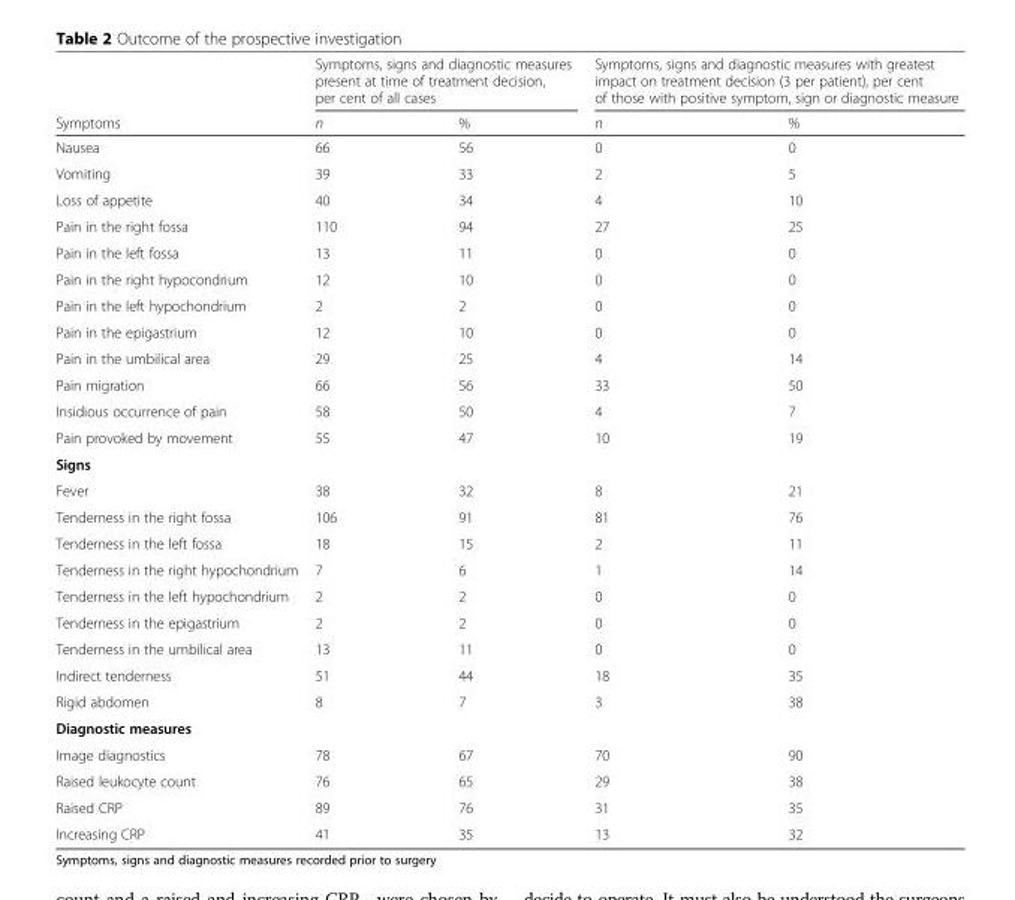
<table><thead><tr><td rowspan="2">Symptoms</td><td colspan="2">Symptoms, signs and diagnostic measures present at time of treatment decision, per cent of all cases</td><td colspan="2">Symptoms, signs and diagnostic measures with greatest impact on treatment decision (3 per patient), per cent of those with positive symptom, sign or diagnostic measure</td></tr><tr><td>n</td><td>%</td><td>n</td><td>%</td></tr></thead><tbody><tr><td>Nausea</td><td>66</td><td>56</td><td>0</td><td>0</td></tr><tr><td>Vomiting</td><td>39</td><td>33</td><td>2</td><td>5</td></tr><tr><td>Loss of appetite</td><td>40</td><td>34</td><td>4</td><td>10</td></tr><tr><td>Pain in the right fossa</td><td>110</td><td>94</td><td>27</td><td>25</td></tr><tr><td>Pain in the left fossa</td><td>13</td><td>11</td><td>0</td><td>0</td></tr><tr><td>Pain in the right hypocondrium</td><td>12</td><td>10</td><td>0</td><td>0</td></tr><tr><td>Pain in the left hypochondrium</td><td>2</td><td>2</td><td>0</td><td>0</td></tr><tr><td>Pain in the epigastrium</td><td>12</td><td>10</td><td>0</td><td>0</td></tr><tr><td>Pain in the umbilical area</td><td>29</td><td>25</td><td>4</td><td>14</td></tr><tr><td>Pain migration</td><td>66</td><td>56</td><td>33</td><td>50</td></tr><tr><td>Insidious occurrence of pain</td><td>58</td><td>50</td><td>4</td><td>7</td></tr><tr><td>Pain provoked by movement</td><td>55</td><td>47</td><td>10</td><td>19</td></tr><tr><td colspan="5">Signs</td></tr><tr><td>Fever</td><td>38</td><td>32</td><td>8</td><td>21</td></tr><tr><td>Tenderness in the right fossa</td><td>106</td><td>91</td><td>81</td><td>76</td></tr><tr><td>Tenderness in the left fossa</td><td>18</td><td>15</td><td>2</td><td>11</td></tr><tr><td>Tenderness in the right hypochondrium</td><td>7</td><td>6</td><td>1</td><td>14</td></tr><tr><td>Tenderness in the left hypochondrium</td><td>2</td><td>2</td><td>0</td><td>0</td></tr><tr><td>Tenderness in the epigastrium</td><td>2</td><td>2</td><td>0</td><td>0</td></tr><tr><td>Tenderness in the umbilical area</td><td>13</td><td>11</td><td>0</td><td>0</td></tr><tr><td>Indirect tenderness</td><td>51</td><td>44</td><td>18</td><td>35</td></tr><tr><td>Rigid abdomen</td><td>8</td><td>7</td><td>3</td><td>38</td></tr><tr><td colspan="5">Diagnostic measures</td></tr><tr><td>Image diagnostics</td><td>78</td><td>67</td><td>70</td><td>90</td></tr><tr><td>Raised leukocyte count</td><td>76</td><td>65</td><td>29</td><td>38</td></tr><tr><td>Raised CRP</td><td>89</td><td>76</td><td>31</td><td>35</td></tr><tr><td>Increasing CRP</td><td>41</td><td>35</td><td>13</td><td>32</td></tr></tbody></table>